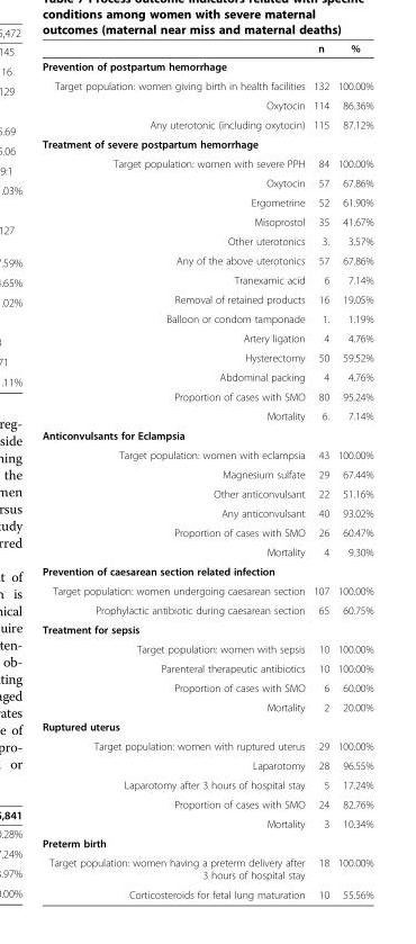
<table><thead><tr><td></td><td>n</td><td>%</td></tr></thead><tbody><tr><td colspan="3">Prevention of postpartum hemorrhage</td></tr><tr><td>Target population: women giving birth in health facilities</td><td>132</td><td>100.00%</td></tr><tr><td>Oxytocin</td><td>114</td><td>86.36%</td></tr><tr><td>Any uterotonic (including oxytocin)</td><td>115</td><td>87.12%</td></tr><tr><td colspan="3">Treatment of severe postpartum hemorrhage</td></tr><tr><td>Target population: women with severe PPH</td><td>84</td><td>100.00%</td></tr><tr><td>Oxytocin</td><td>57</td><td>67.86%</td></tr><tr><td>Ergometrine</td><td>52</td><td>61.90%</td></tr><tr><td>Misoprostol</td><td>35</td><td>41.67%</td></tr><tr><td>Other uterotonics</td><td>3.</td><td>3.57%</td></tr><tr><td>Any of the above uterotonics</td><td>57</td><td>67.86%</td></tr><tr><td>Tranexamic acid</td><td>6</td><td>7.14%</td></tr><tr><td>Removal of retained products</td><td>16</td><td>19.05%</td></tr><tr><td>Balloon or condom tamponade</td><td>1.</td><td>1.19%</td></tr><tr><td>Artery ligation</td><td>4</td><td>4.76%</td></tr><tr><td>Hysterectomy</td><td>50</td><td>59.52%</td></tr><tr><td>Abdominal packing</td><td>4</td><td>4.76%</td></tr><tr><td>Proportion of cases with SMO</td><td>80</td><td>95.24%</td></tr><tr><td>Mortality</td><td>6.</td><td>7.14%</td></tr><tr><td colspan="3">Anticonvulsants for Eclampsia</td></tr><tr><td>Target population: women with eclampsia</td><td>43</td><td>100.00%</td></tr><tr><td>Magnesium sulfate</td><td>29</td><td>67.44%</td></tr><tr><td>Other anticonvulsant</td><td>22</td><td>51.16%</td></tr><tr><td>Any anticonvulsant</td><td>40</td><td>93.02%</td></tr><tr><td>Proportion of cases with SMO</td><td>26</td><td>60.47%</td></tr><tr><td>Mortality</td><td>4</td><td>9.30%</td></tr><tr><td colspan="3">Prevention of caesarean section related infection</td></tr><tr><td>Target population: women undergoing caesarean section</td><td>107</td><td>100.00%</td></tr><tr><td>Prophylactic antibiotic during caesarean section</td><td>65</td><td>60.75%</td></tr><tr><td colspan="3">Treatment for sepsis</td></tr><tr><td>Target population: women with sepsis</td><td>10</td><td>100.00%</td></tr><tr><td>Parenteral therapeutic antibiotics</td><td>10</td><td>100.00%</td></tr><tr><td>Proportion of cases with SMO</td><td>6</td><td>60.00%</td></tr><tr><td>Mortality</td><td>2</td><td>20.00%</td></tr><tr><td colspan="3">Ruptured uterus</td></tr><tr><td>Target population: women with ruptured uterus</td><td>29</td><td>100.00%</td></tr><tr><td>Laparotomy</td><td>28</td><td>96.55%</td></tr><tr><td>Laparotomy after 3 hours of hospital stay</td><td>5</td><td>17.24%</td></tr><tr><td>Proportion of cases with SMO</td><td>24</td><td>82.76%</td></tr><tr><td>Mortality</td><td>3</td><td>10.34%</td></tr><tr><td colspan="3">Preterm birth</td></tr><tr><td>Target population: women having a preterm delivery after 3 hours of hospital stay</td><td>18</td><td>100.00%</td></tr><tr><td>Corticosteroids for fetal lung maturation</td><td>10</td><td>55.56%</td></tr></tbody></table>